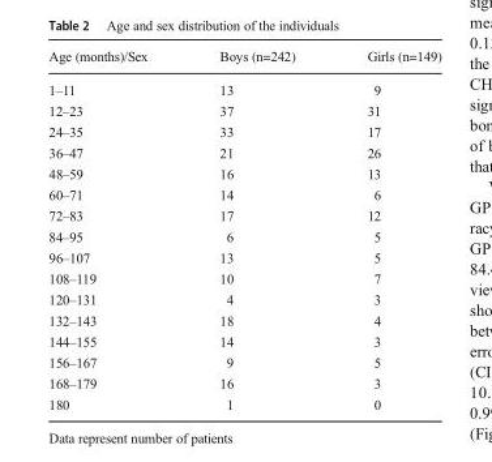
<table><thead><tr><td>Age (months)/Sex</td><td>Boys (n=242)</td><td>Girls (n=149)</td></tr></thead><tbody><tr><td>1–11</td><td>13</td><td>9</td></tr><tr><td>12–23</td><td>37</td><td>31</td></tr><tr><td>24–35</td><td>33</td><td>17</td></tr><tr><td>36–47</td><td>21</td><td>26</td></tr><tr><td>48–59</td><td>16</td><td>13</td></tr><tr><td>60–71</td><td>14</td><td>6</td></tr><tr><td>72–83</td><td>17</td><td>12</td></tr><tr><td>84–95</td><td>6</td><td>5</td></tr><tr><td>96–107</td><td>13</td><td>5</td></tr><tr><td>108–119</td><td>10</td><td>7</td></tr><tr><td>120–131</td><td>4</td><td>3</td></tr><tr><td>132–143</td><td>18</td><td>4</td></tr><tr><td>144–155</td><td>14</td><td>3</td></tr><tr><td>156–167</td><td>9</td><td>5</td></tr><tr><td>168–179</td><td>16</td><td>3</td></tr><tr><td>180</td><td>1</td><td>0</td></tr></tbody></table>